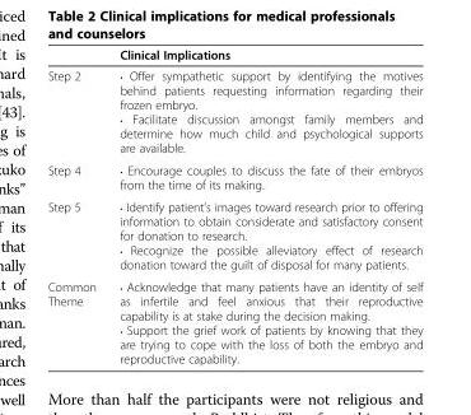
<table><thead><tr><td></td><td>Clinical Implications</td></tr></thead><tbody><tr><td>Step 2</td><td>• Offer sympathetic support by identifying the motives behind patients requesting information regarding their frozen embryo. • Facilitate discussion amongst family members and determine how much child and psychological supports are available.</td></tr><tr><td>Step 4</td><td>• Encourage couples to discuss the fate of their embryos from the time of its making.</td></tr><tr><td>Step 5</td><td>• Identify patient’s images toward research prior to offering information to obtain considerate and satisfactory consent for donation to research. • Recognize the possible alleviatory effect of research donation toward the guilt of disposal for many patients.</td></tr><tr><td>Common Theme</td><td>• Acknowledge that many patients have an identity of self as infertile and feel anxious that their reproductive capability is at stake during the decision making. • Support the grief work of patients by knowing that they are trying to cope with the loss of both the embryo and reproductive capability.</td></tr></tbody></table>